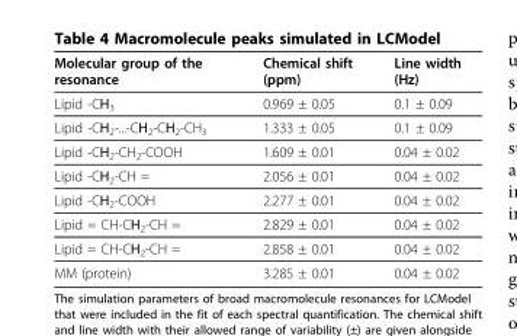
<table><thead><tr><td>Molecular group of the resonance</td><td>Chemical shift (ppm)</td><td>Line width (Hz)</td></tr></thead><tbody><tr><td>Lipid -CH<sub>3</sub></td><td>0.969 ± 0.05</td><td>0.1 ± 0.09</td></tr><tr><td>Lipid -CH<sub>2</sub>-...-CH<sub>2</sub>-CH<sub>2</sub>-CH<sub>3</sub></td><td>1.333 ± 0.05</td><td>0.1 ± 0.09</td></tr><tr><td>Lipid -CH<sub>2</sub>-CH<sub>2</sub>-COOH</td><td>1.609 ± 0.01</td><td>0.04 ± 0.02</td></tr><tr><td>Lipid -CH<sub>2</sub>-CH =</td><td>2.056 ± 0.01</td><td>0.04 ± 0.02</td></tr><tr><td>Lipid -CH<sub>2</sub>-COOH</td><td>2.277 ± 0.01</td><td>0.04 ± 0.02</td></tr><tr><td>Lipid = CH-CH<sub>2</sub>-CH =</td><td>2.829 ± 0.01</td><td>0.04 ± 0.02</td></tr><tr><td>Lipid = CH-CH<sub>2</sub>-CH =</td><td>2.858 ± 0.01</td><td>0.04 ± 0.02</td></tr><tr><td>MM (protein)</td><td>3.285 ± 0.01</td><td>0.04 ± 0.02</td></tr></tbody></table>